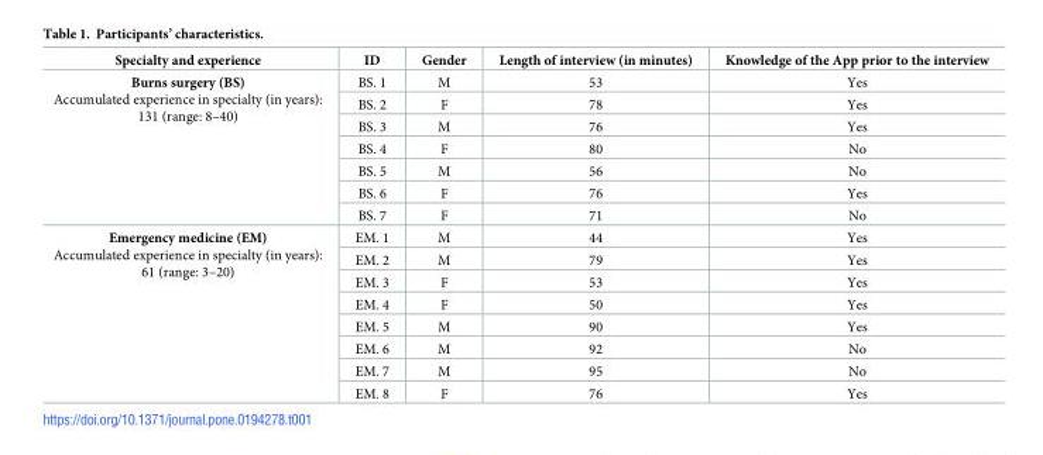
<table><thead><tr><td>Specialty and experience</td><td>ID</td><td>Gender</td><td>Length of interview (in minutes)</td><td>Knowledge of the App prior to the interview</td></tr></thead><tbody><tr><td rowspan="7">Burns surgery (BS) Accumulated experience in specialty (in years): 131 (range: 8–40)</td><td>BS. 1</td><td>M</td><td>53</td><td>Yes</td></tr><tr><td>BS. 2</td><td>F</td><td>78</td><td>Yes</td></tr><tr><td>BS. 3</td><td>M</td><td>76</td><td>Yes</td></tr><tr><td>BS. 4</td><td>F</td><td>80</td><td>No</td></tr><tr><td>BS. 5</td><td>M</td><td>56</td><td>No</td></tr><tr><td>BS. 6</td><td>F</td><td>76</td><td>Yes</td></tr><tr><td>BS. 7</td><td>F</td><td>71</td><td>No</td></tr><tr><td rowspan="8">Emergency medicine (EM) Accumulated experience in specialty (in years): 61 (range: 3–20)</td><td>EM. 1</td><td>M</td><td>44</td><td>Yes</td></tr><tr><td>EM. 2</td><td>M</td><td>79</td><td>Yes</td></tr><tr><td>EM. 3</td><td>F</td><td>53</td><td>Yes</td></tr><tr><td>EM. 4</td><td>F</td><td>50</td><td>Yes</td></tr><tr><td>EM. 5</td><td>M</td><td>90</td><td>Yes</td></tr><tr><td>EM. 6</td><td>M</td><td>92</td><td>No</td></tr><tr><td>EM. 7</td><td>M</td><td>95</td><td>No</td></tr><tr><td>EM. 8</td><td>F</td><td>76</td><td>Yes</td></tr></tbody></table>